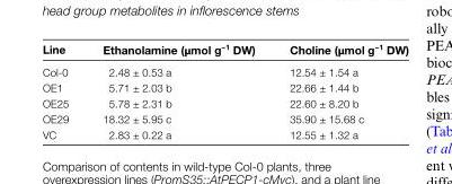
<table><thead><tr><td>Line</td><td>Ethanolamine (µmol g<sup>−1</sup> DW)</td><td>Choline (µmol g<sup>−1</sup> DW)</td></tr></thead><tbody><tr><td>Col-0</td><td>2.48 ± 0.53 a</td><td>12.54 ± 1.54 a</td></tr><tr><td>OE1</td><td>5.71 ± 2.03 b</td><td>22.66 ± 1.44 b</td></tr><tr><td>OE25</td><td>5.78 ± 2.31 b</td><td>22.60 ± 8.20 b</td></tr><tr><td>OE29</td><td>18.32 ± 5.95 c</td><td>35.90 ± 15.68 c</td></tr><tr><td>VC</td><td>2.83 ± 0.22 a</td><td>12.55 ± 1.32 a</td></tr></tbody></table>